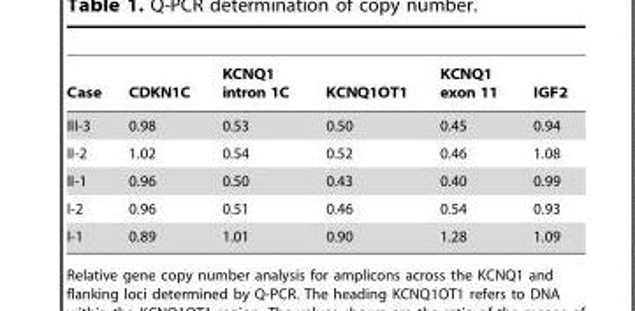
<table><thead><tr><td>Case</td><td>CDKN1C</td><td>KCNQ1 intron 1C</td><td>KCNQ1OT1</td><td>KCNQ1 exon 11</td><td>IGF2</td></tr></thead><tbody><tr><td>III-3</td><td>0.98</td><td>0.53</td><td>0.50</td><td>0.45</td><td>0.94</td></tr><tr><td>II-2</td><td>1.02</td><td>0.54</td><td>0.52</td><td>0.46</td><td>1.08</td></tr><tr><td>II-1</td><td>0.96</td><td>0.50</td><td>0.43</td><td>0.40</td><td>0.99</td></tr><tr><td>I-2</td><td>0.96</td><td>0.51</td><td>0.46</td><td>0.54</td><td>0.93</td></tr><tr><td>I-1</td><td>0.89</td><td>1.01</td><td>0.90</td><td>1.28</td><td>1.09</td></tr></tbody></table>